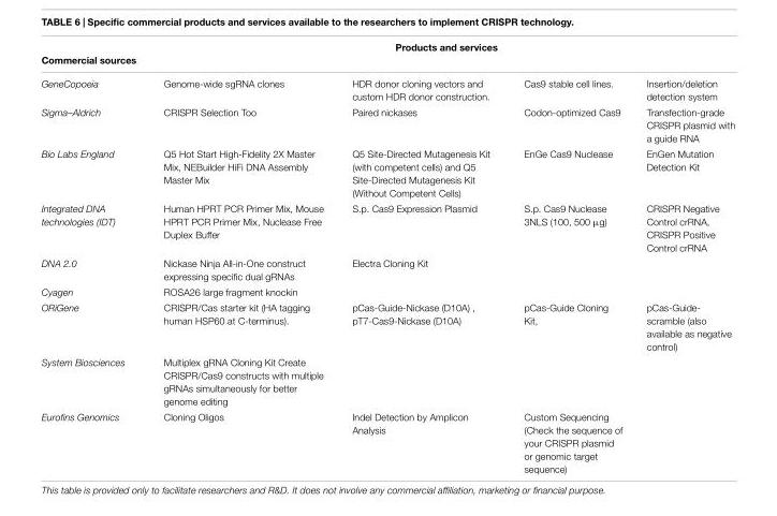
<table><thead><tr><td rowspan="2">Commercial sources GeneCopoeia</td><td colspan="4">Products and services</td></tr><tr><td>Genome-wide sgRNA clones</td><td>HDR donor cloning vectors and custom HDR donor construction.</td><td>Cas9 stable cell lines.</td><td>Insertion/deletion detection system</td></tr></thead><tbody><tr><td>Sigma–Aldrich</td><td>CRISPR Selection Too</td><td>Paired nickases</td><td>Codon-optimized Cas9</td><td>Transfection-grade CRISPR plasmid with a guide RNA</td></tr><tr><td>Bio Labs England</td><td>Q5 Hot Start High-Fidelity 2X Master Mix, NEBuilder HiFi DNA Assembly Master Mix</td><td>Q5 Site-Directed Mutagenesis Kit (with competent cells) and Q5 Site-Directed Mutagenesis Kit (Without Competent Cells)</td><td>EnGe Cas9 Nuclease</td><td>EnGen Mutation Detection Kit</td></tr><tr><td>Integrated DNA technologies (IDT)</td><td>Human HPRT PCR Primer Mix, Mouse HPRT PCR Primer Mix, Nuclease Free Duplex Buffer</td><td>S.p. Cas9 Expression Plasmid</td><td>S.p. Cas9 Nuclease 3NLS (100, 500 µg)</td><td>CRISPR Negative Control crRNA, CRISPR Positive Control crRNA</td></tr><tr><td>DNA 2.0</td><td>Nickase Ninja All-in-One construct expressing specific dual gRNAs</td><td>Electra Cloning Kit</td><td></td><td></td></tr><tr><td>Cyagen</td><td>ROSA26 large fragment knockin</td><td></td><td></td><td></td></tr><tr><td>ORiGene</td><td>CRISPR/Cas starter kit (HA tagging human HSP60 at C-terminus).</td><td>pCas-Guide-Nickase (D10A) , pT7-Cas9-Nickase (D10A)</td><td>pCas-Guide Cloning Kit,</td><td>pCas-Guide- scramble (also available as negative control)</td></tr><tr><td>System Biosciences</td><td>Multiplex gRNA Cloning Kit Create CRISPR/Cas9 constructs with multiple gRNAs simultaneously for better genome editing</td><td></td><td></td><td></td></tr><tr><td>Eurofins Genomics</td><td>Cloning Oligos</td><td>Indel Detection by Amplicon Analysis</td><td>Custom Sequencing (Check the sequence of your CRISPR plasmid or genomic target sequence)</td><td></td></tr></tbody></table>